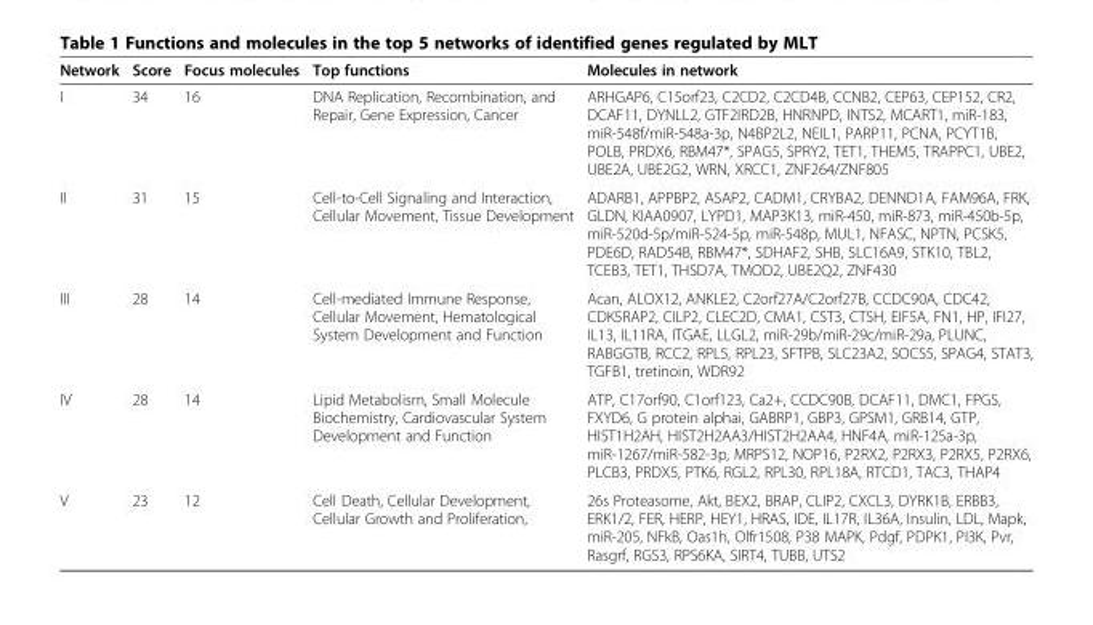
<table><thead><tr><td>Network</td><td>Score</td><td>Focus molecules</td><td>Top functions</td><td>Molecules in network</td></tr></thead><tbody><tr><td>I</td><td>34</td><td>16</td><td>DNA Replication, Recombination, and Repair, Gene Expression, Cancer</td><td>ARHGAP6, C15orf23, C2CD2, C2CD4B, CCNB2, CEP63, CEP152, CR2, DCAF11, DYNLL2, GTF2IRD2B, HNRNPD, INTS2, MCART1, miR-183, miR-548f/miR-548a-3p, N4BP2L2, NEIL1, PARP11, PCNA, PCYT1B, POLB, PRDX6, RBM47*, SPAG5, SPRY2, TET1, THEM5, TRAPPC1, UBE2, UBE2A, UBE2G2, WRN, XRCC1, ZNF264/ZNF805</td></tr><tr><td>II</td><td>31</td><td>15</td><td>Cell-to-Cell Signaling and Interaction, Cellular Movement, Tissue Development</td><td>ADARB1, APPBP2, ASAP2, CADM1, CRYBA2, DENND1A, FAM96A, FRK, GLDN, KIAA0907, LYPD1, MAP3K13, miR-450, miR-873, miR-450b-5p, miR-520d-5p/miR-524-5p, miR-548p, MUL1, NFASC, NPTN, PCSK5, PDE6D, RAD54B, RBM47*, SDHAF2, SHB, SLC16A9, STK10, TBL2, TCEB3, TET1, THSD7A, TMOD2, UBE2Q2, ZNF430</td></tr><tr><td>III</td><td>28</td><td>14</td><td>Cell-mediated Immune Response, Cellular Movement, Hematological System Development and Function</td><td>Acan, ALOX12, ANKLE2, C2orf27A/C2orf27B, CCDC90A, CDC42, CDK5RAP2, CILP2, CLEC2D, CMA1, CST3, CTSH, EIF5A, FN1, HP, IFI27, IL13, IL11RA, ITGAE, LLGL2, miR-29b/miR-29c/miR-29a, PLUNC, RABGGTB, RCC2, RPL5, RPL23, SFTPB, SLC23A2, SOCS5, SPAG4, STAT3, TGFB1, tretinoin, WDR92</td></tr><tr><td>IV</td><td>28</td><td>14</td><td>Lipid Metabolism, Small Molecule Biochemistry, Cardiovascular System Development and Function</td><td>ATP, C17orf90, C1orf123, Ca2+, CCDC90B, DCAF11, DMC1, FPGS, FXYD6, G protein alphai, GABRP1, GBP3, GPSM1, GRB14, GTP, HIST1H2AH, HIST2H2AA3/HIST2H2AA4, HNF4A, miR-125a-3p, miR-1267/miR-582-3p, MRPS12, NOP16, P2RX2, P2RX3, P2RX5, P2RX6, PLCB3, PRDX5, PTK6, RGL2, RPL30, RPL18A, RTCD1, TAC3, THAP4</td></tr><tr><td>V</td><td>23</td><td>12</td><td>Cell Death, Cellular Development, Cellular Growth and Proliferation,</td><td>26s Proteasome, Akt, BEX2, BRAP, CLIP2, CXCL3, DYRK1B, ERBB3, ERK1/2, FER, HERP, HEY1, HRAS, IDE, IL17R, IL36A, Insulin, LDL, Mapk, miR-205, NFkB, Oas1h, Olfr1508, P38 MAPK, Pdgf, PDPK1, PI3K, Pvr, Rasgrf, RGS3, RPS6KA, SIRT4, TUBB, UTS2</td></tr></tbody></table>